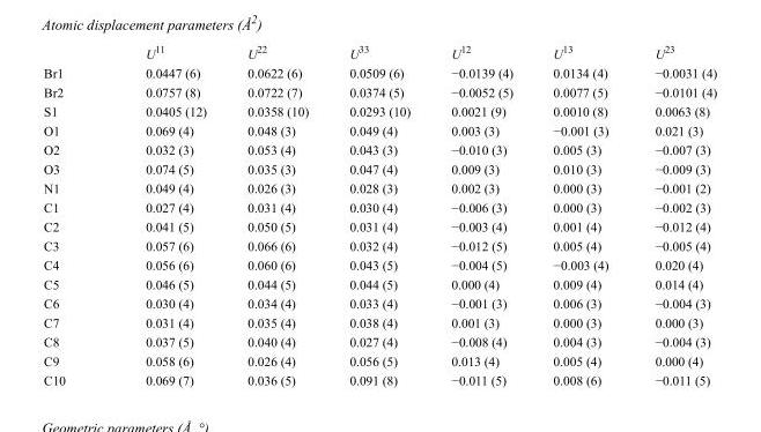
<table><thead><tr><td></td><td>U<sup>11</sup></td><td>U<sup>22</sup></td><td>U<sup>33</sup></td><td>U<sup>12</sup></td><td>U<sup>13</sup></td><td>U<sup>23</sup></td></tr></thead><tbody><tr><td>Br1</td><td>0.0447 (6)</td><td>0.0622 (6)</td><td>0.0509 (6)</td><td>−0.0139 (4)</td><td>0.0134 (4)</td><td>−0.0031 (4)</td></tr><tr><td>Br2</td><td>0.0757 (8)</td><td>0.0722 (7)</td><td>0.0374 (5)</td><td>−0.0052 (5)</td><td>0.0077 (5)</td><td>−0.0101 (4)</td></tr><tr><td>S1</td><td>0.0405 (12)</td><td>0.0358 (10)</td><td>0.0293 (10)</td><td>0.0021 (9)</td><td>0.0010 (8)</td><td>0.0063 (8)</td></tr><tr><td>O1</td><td>0.069 (4)</td><td>0.048 (3)</td><td>0.049 (4)</td><td>0.003 (3)</td><td>−0.001 (3)</td><td>0.021 (3)</td></tr><tr><td>O2</td><td>0.032 (3)</td><td>0.053 (4)</td><td>0.043 (3)</td><td>−0.010 (3)</td><td>0.005 (3)</td><td>−0.007 (3)</td></tr><tr><td>O3</td><td>0.074 (5)</td><td>0.035 (3)</td><td>0.047 (4)</td><td>0.009 (3)</td><td>0.010 (3)</td><td>−0.009 (3)</td></tr><tr><td>N1</td><td>0.049 (4)</td><td>0.026 (3)</td><td>0.028 (3)</td><td>0.002 (3)</td><td>0.000 (3)</td><td>−0.001 (2)</td></tr><tr><td>C1</td><td>0.027 (4)</td><td>0.031 (4)</td><td>0.030 (4)</td><td>−0.006 (3)</td><td>0.000 (3)</td><td>−0.002 (3)</td></tr><tr><td>C2</td><td>0.041 (5)</td><td>0.050 (5)</td><td>0.031 (4)</td><td>−0.003 (4)</td><td>0.001 (4)</td><td>−0.012 (4)</td></tr><tr><td>C3</td><td>0.057 (6)</td><td>0.066 (6)</td><td>0.032 (4)</td><td>−0.012 (5)</td><td>0.005 (4)</td><td>−0.005 (4)</td></tr><tr><td>C4</td><td>0.056 (6)</td><td>0.060 (6)</td><td>0.043 (5)</td><td>−0.004 (5)</td><td>−0.003 (4)</td><td>0.020 (4)</td></tr><tr><td>C5</td><td>0.046 (5)</td><td>0.044 (5)</td><td>0.044 (5)</td><td>0.000 (4)</td><td>0.009 (4)</td><td>0.014 (4)</td></tr><tr><td>C6</td><td>0.030 (4)</td><td>0.034 (4)</td><td>0.033 (4)</td><td>−0.001 (3)</td><td>0.006 (3)</td><td>−0.004 (3)</td></tr><tr><td>C7</td><td>0.031 (4)</td><td>0.035 (4)</td><td>0.038 (4)</td><td>0.001 (3)</td><td>0.000 (3)</td><td>0.000 (3)</td></tr><tr><td>C8</td><td>0.037 (5)</td><td>0.040 (4)</td><td>0.027 (4)</td><td>−0.008 (4)</td><td>0.004 (3)</td><td>−0.004 (3)</td></tr><tr><td>C9</td><td>0.058 (6)</td><td>0.026 (4)</td><td>0.056 (5)</td><td>0.013 (4)</td><td>0.005 (4)</td><td>0.000 (4)</td></tr><tr><td>C10</td><td>0.069 (7)</td><td>0.036 (5)</td><td>0.091 (8)</td><td>−0.011 (5)</td><td>0.008 (6)</td><td>−0.011 (5)</td></tr></tbody></table>